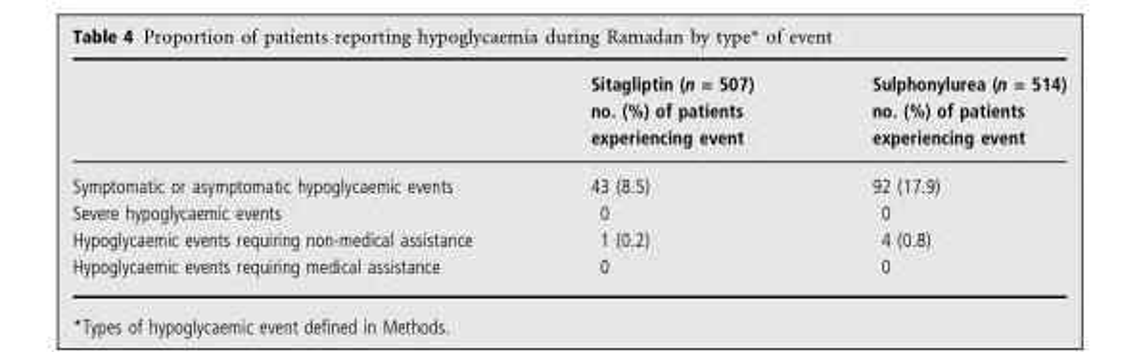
<table><thead><tr><td></td><td>Sitagliptin (n = 507) no. (%) of patients experiencing event</td><td>Sulphonylurea (n = 514) no. (%) of patients experiencing event</td></tr></thead><tbody><tr><td>Symptomatic or asymptomatic hypoglycaemic events</td><td>43 (8.5)</td><td>92 (17.9)</td></tr><tr><td>Severe hypoglycaemic events</td><td>0</td><td>0</td></tr><tr><td>Hypoglycaemic events requiring non-medical assistance</td><td>1 (0.2)</td><td>4 (0.8)</td></tr><tr><td>Hypoglycaemic events requiring medical assistance</td><td>0</td><td>0</td></tr></tbody></table>